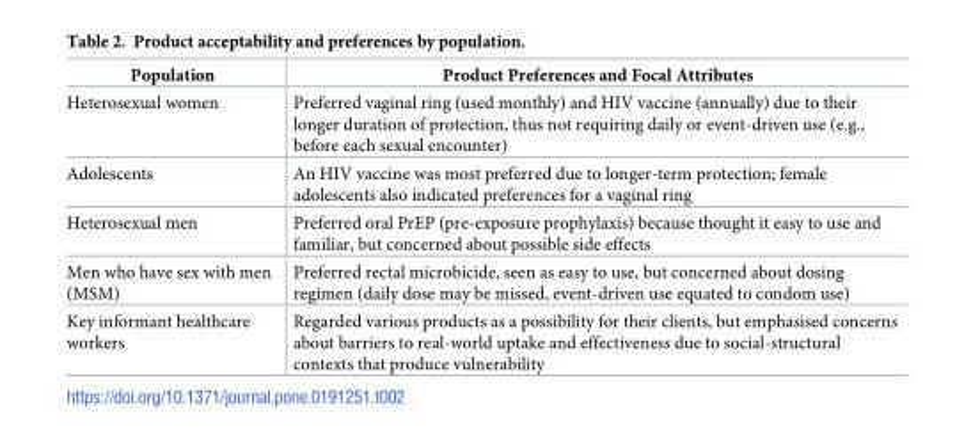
<table><thead><tr><td>Population</td><td>Product Preferences and Focal Attributes</td></tr></thead><tbody><tr><td>Heterosexual women</td><td>Preferred vaginal ring (used monthly) and HIV vaccine (annually) due to their longer duration of protection, thus not requiring daily or event-driven use (e.g., before each sexual encounter)</td></tr><tr><td>Adolescents</td><td>An HIV vaccine was most preferred due to longer-term protection; female adolescents also indicated preferences for a vaginal ring</td></tr><tr><td>Heterosexual men</td><td>Preferred oral PrEP (pre-exposure prophylaxis) because thought it easy to use and familiar, but concerned about possible side effects</td></tr><tr><td>Men who have sex with men (MSM)</td><td>Preferred rectal microbicide, seen as easy to use, but concerned about dosing regimen (daily dose may be missed, event-driven use equated to condom use)</td></tr><tr><td>Key informant healthcare workers</td><td>Regarded various products as a possibility for their clients, but emphasised concerns about barriers to real-world uptake and effectiveness due to social-structural contexts that produce vulnerability</td></tr></tbody></table>